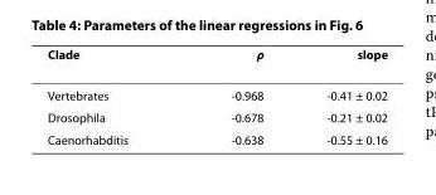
<table><thead><tr><td>Clade</td><td>ρ</td><td>slope</td></tr></thead><tbody><tr><td>Vertebrates</td><td>-0.968</td><td>-0.41 ± 0.02</td></tr><tr><td>Drosophila</td><td>-0.678</td><td>-0.21 ± 0.02</td></tr><tr><td>Caenorhabditis</td><td>-0.638</td><td>-0.55 ± 0.16</td></tr></tbody></table>